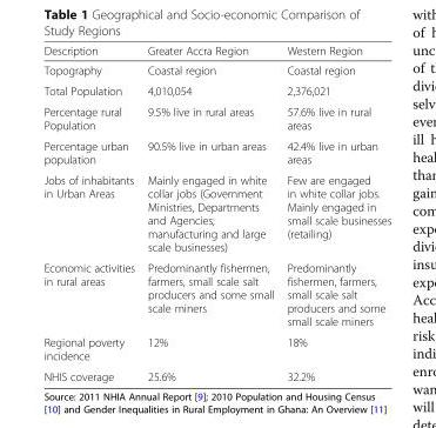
<table><thead><tr><td>Description</td><td>Greater Accra Region</td><td>Western Region</td></tr></thead><tbody><tr><td>Topography</td><td>Coastal region</td><td>Coastal region</td></tr><tr><td>Total Population</td><td>4,010,054</td><td>2,376,021</td></tr><tr><td>Percentage rural Population</td><td>9.5% live in rural areas</td><td>57.6% live in rural areas</td></tr><tr><td>Percentage urban population</td><td>90.5% live in urban areas</td><td>42.4% live in urban areas</td></tr><tr><td>Jobs of inhabitants in Urban Areas</td><td>Mainly engaged in white collar jobs (Government Ministries, Departments and Agencies; manufacturing and large scale businesses)</td><td>Few are engaged in white collar jobs. Mainly engaged in small scale businesses (retailing)</td></tr><tr><td>Economic activities in rural areas</td><td>Predominantly fishermen, farmers, small scale salt producers and some small scale miners</td><td>Predominantly fishermen, farmers, small scale salt producers and some small scale miners</td></tr><tr><td>Regional poverty incidence</td><td>12%</td><td>18%</td></tr><tr><td>NHIS coverage</td><td>25.6%</td><td>32.2%</td></tr></tbody></table>